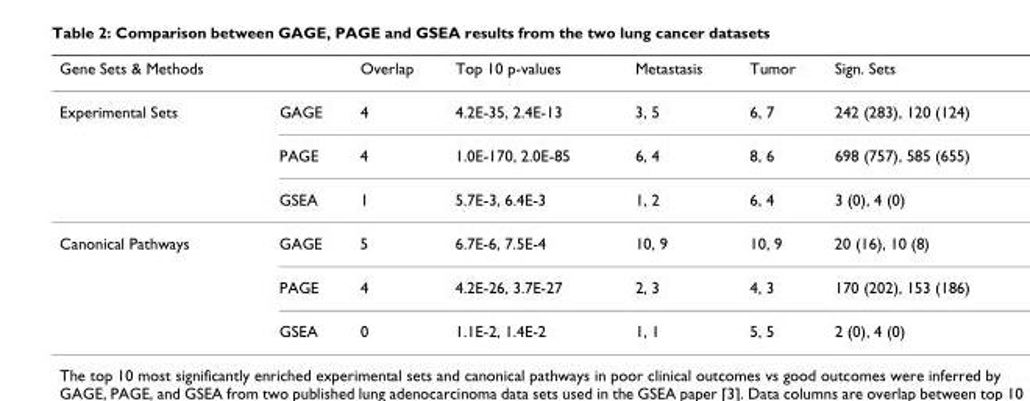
<table><thead><tr><td>Gene Sets &amp; Methods</td><td></td><td>Overlap</td><td>Top 10 p-values</td><td>Metastasis</td><td>Tumor</td><td>Sign. Sets</td></tr></thead><tbody><tr><td rowspan="3">Experimental Sets</td><td>GAGE</td><td>4</td><td>4.2E-35, 2.4E-13</td><td>3, 5</td><td>6, 7</td><td>242 (283), 120 (124)</td></tr><tr><td>PAGE</td><td>4</td><td>1.0E-170, 2.0E-85</td><td>6, 4</td><td>8, 6</td><td>698 (757), 585 (655)</td></tr><tr><td>GSEA</td><td>1</td><td>5.7E-3, 6.4E-3</td><td>1, 2</td><td>6, 4</td><td>3 (0), 4 (0)</td></tr><tr><td rowspan="3">Canonical Pathways</td><td>GAGE</td><td>5</td><td>6.7E-6, 7.5E-4</td><td>10, 9</td><td>10, 9</td><td>20 (16), 10 (8)</td></tr><tr><td>PAGE</td><td>4</td><td>4.2E-26, 3.7E-27</td><td>2, 3</td><td>4, 3</td><td>170 (202), 153 (186)</td></tr><tr><td>GSEA</td><td>0</td><td>1.1E-2, 1.4E-2</td><td>1, 1</td><td>5, 5</td><td>2 (0), 4 (0)</td></tr></tbody></table>